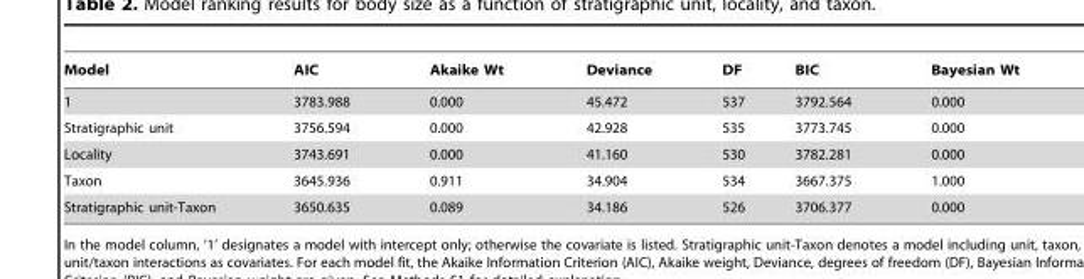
<table><thead><tr><td>Model</td><td>AIC</td><td>Akaike Wt</td><td>Deviance</td><td>DF</td><td>BIC</td><td>Bayesian Wt</td></tr></thead><tbody><tr><td>1</td><td>3783.988</td><td>0.000</td><td>45.472</td><td>537</td><td>3792.564</td><td>0.000</td></tr><tr><td>Stratigraphic unit</td><td>3756.594</td><td>0.000</td><td>42.928</td><td>535</td><td>3773.745</td><td>0.000</td></tr><tr><td>Locality</td><td>3743.691</td><td>0.000</td><td>41.160</td><td>530</td><td>3782.281</td><td>0.000</td></tr><tr><td>Taxon</td><td>3645.936</td><td>0.911</td><td>34.904</td><td>534</td><td>3667.375</td><td>1.000</td></tr><tr><td>Stratigraphic unit-Taxon</td><td>3650.635</td><td>0.089</td><td>34.186</td><td>526</td><td>3706.377</td><td>0.000</td></tr></tbody></table>